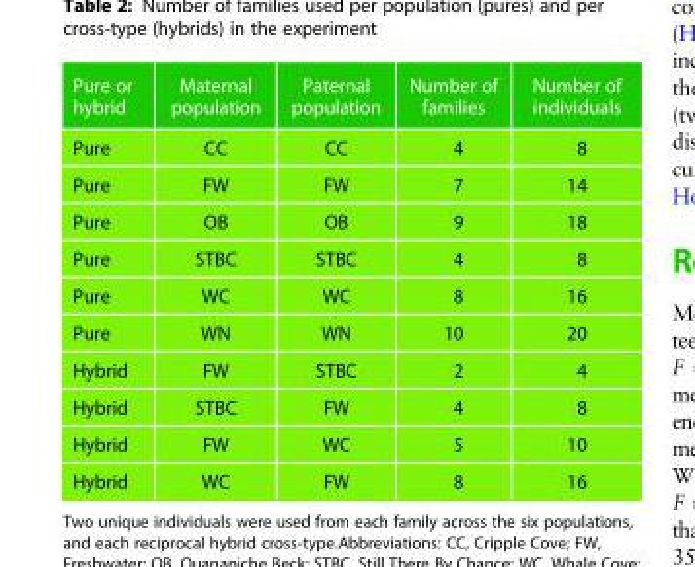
<table><thead><tr><td>Pure or hybrid</td><td>Maternal population</td><td>Paternal population</td><td>Number of families</td><td>Number of individuals</td></tr></thead><tbody><tr><td>Pure</td><td>CC</td><td>CC</td><td>4</td><td>8</td></tr><tr><td>Pure</td><td>FW</td><td>FW</td><td>7</td><td>14</td></tr><tr><td>Pure</td><td>OB</td><td>OB</td><td>9</td><td>18</td></tr><tr><td>Pure</td><td>STBC</td><td>STBC</td><td>4</td><td>8</td></tr><tr><td>Pure</td><td>WC</td><td>WC</td><td>8</td><td>16</td></tr><tr><td>Pure</td><td>WN</td><td>WN</td><td>10</td><td>20</td></tr><tr><td>Hybrid</td><td>FW</td><td>STBC</td><td>2</td><td>4</td></tr><tr><td>Hybrid</td><td>STBC</td><td>FW</td><td>4</td><td>8</td></tr><tr><td>Hybrid</td><td>FW</td><td>WC</td><td>5</td><td>10</td></tr><tr><td>Hybrid</td><td>WC</td><td>FW</td><td>8</td><td>16</td></tr></tbody></table>